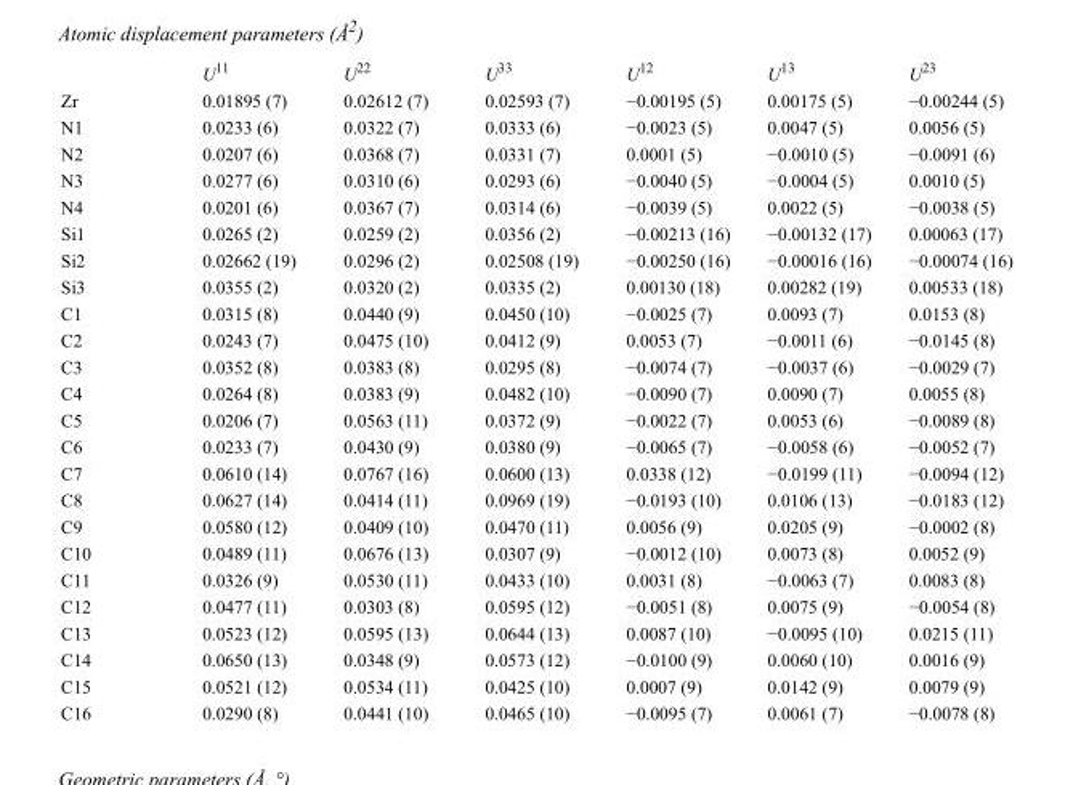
<table><thead><tr><td></td><td>U<sup>11</sup></td><td>U<sup>22</sup></td><td>U<sup>33</sup></td><td>U<sup>12</sup></td><td>U<sup>13</sup></td><td>U<sup>23</sup></td></tr></thead><tbody><tr><td>Zr</td><td>0.01895 (7)</td><td>0.02612 (7)</td><td>0.02593 (7)</td><td>−0.00195 (5)</td><td>0.00175 (5)</td><td>−0.00244 (5)</td></tr><tr><td>N1</td><td>0.0233 (6)</td><td>0.0322 (7)</td><td>0.0333 (6)</td><td>−0.0023 (5)</td><td>0.0047 (5)</td><td>0.0056 (5)</td></tr><tr><td>N2</td><td>0.0207 (6)</td><td>0.0368 (7)</td><td>0.0331 (7)</td><td>0.0001 (5)</td><td>−0.0010 (5)</td><td>−0.0091 (6)</td></tr><tr><td>N3</td><td>0.0277 (6)</td><td>0.0310 (6)</td><td>0.0293 (6)</td><td>−0.0040 (5)</td><td>−0.0004 (5)</td><td>0.0010 (5)</td></tr><tr><td>N4</td><td>0.0201 (6)</td><td>0.0367 (7)</td><td>0.0314 (6)</td><td>−0.0039 (5)</td><td>0.0022 (5)</td><td>−0.0038 (5)</td></tr><tr><td>Si1</td><td>0.0265 (2)</td><td>0.0259 (2)</td><td>0.0356 (2)</td><td>−0.00213 (16)</td><td>−0.00132 (17)</td><td>0.00063 (17)</td></tr><tr><td>Si2</td><td>0.02662 (19)</td><td>0.0296 (2)</td><td>0.02508 (19)</td><td>−0.00250 (16)</td><td>−0.00016 (16)</td><td>−0.00074 (16)</td></tr><tr><td>Si3</td><td>0.0355 (2)</td><td>0.0320 (2)</td><td>0.0335 (2)</td><td>0.00130 (18)</td><td>0.00282 (19)</td><td>0.00533 (18)</td></tr><tr><td>C1</td><td>0.0315 (8)</td><td>0.0440 (9)</td><td>0.0450 (10)</td><td>−0.0025 (7)</td><td>0.0093 (7)</td><td>0.0153 (8)</td></tr><tr><td>C2</td><td>0.0243 (7)</td><td>0.0475 (10)</td><td>0.0412 (9)</td><td>0.0053 (7)</td><td>−0.0011 (6)</td><td>−0.0145 (8)</td></tr><tr><td>C3</td><td>0.0352 (8)</td><td>0.0383 (8)</td><td>0.0295 (8)</td><td>−0.0074 (7)</td><td>−0.0037 (6)</td><td>−0.0029 (7)</td></tr><tr><td>C4</td><td>0.0264 (8)</td><td>0.0383 (9)</td><td>0.0482 (10)</td><td>−0.0090 (7)</td><td>0.0090 (7)</td><td>0.0055 (8)</td></tr><tr><td>C5</td><td>0.0206 (7)</td><td>0.0563 (11)</td><td>0.0372 (9)</td><td>−0.0022 (7)</td><td>0.0053 (6)</td><td>−0.0089 (8)</td></tr><tr><td>C6</td><td>0.0233 (7)</td><td>0.0430 (9)</td><td>0.0380 (9)</td><td>−0.0065 (7)</td><td>−0.0058 (6)</td><td>−0.0052 (7)</td></tr><tr><td>C7</td><td>0.0610 (14)</td><td>0.0767 (16)</td><td>0.0600 (13)</td><td>0.0338 (12)</td><td>−0.0199 (11)</td><td>−0.0094 (12)</td></tr><tr><td>C8</td><td>0.0627 (14)</td><td>0.0414 (11)</td><td>0.0969 (19)</td><td>−0.0193 (10)</td><td>0.0106 (13)</td><td>−0.0183 (12)</td></tr><tr><td>C9</td><td>0.0580 (12)</td><td>0.0409 (10)</td><td>0.0470 (11)</td><td>0.0056 (9)</td><td>0.0205 (9)</td><td>−0.0002 (8)</td></tr><tr><td>C10</td><td>0.0489 (11)</td><td>0.0676 (13)</td><td>0.0307 (9)</td><td>−0.0012 (10)</td><td>0.0073 (8)</td><td>0.0052 (9)</td></tr><tr><td>C11</td><td>0.0326 (9)</td><td>0.0530 (11)</td><td>0.0433 (10)</td><td>0.0031 (8)</td><td>−0.0063 (7)</td><td>0.0083 (8)</td></tr><tr><td>C12</td><td>0.0477 (11)</td><td>0.0303 (8)</td><td>0.0595 (12)</td><td>−0.0051 (8)</td><td>0.0075 (9)</td><td>−0.0054 (8)</td></tr><tr><td>C13</td><td>0.0523 (12)</td><td>0.0595 (13)</td><td>0.0644 (13)</td><td>0.0087 (10)</td><td>−0.0095 (10)</td><td>0.0215 (11)</td></tr><tr><td>C14</td><td>0.0650 (13)</td><td>0.0348 (9)</td><td>0.0573 (12)</td><td>−0.0100 (9)</td><td>0.0060 (10)</td><td>0.0016 (9)</td></tr><tr><td>C15</td><td>0.0521 (12)</td><td>0.0534 (11)</td><td>0.0425 (10)</td><td>0.0007 (9)</td><td>0.0142 (9)</td><td>0.0079 (9)</td></tr><tr><td>C16</td><td>0.0290 (8)</td><td>0.0441 (10)</td><td>0.0465 (10)</td><td>−0.0095 (7)</td><td>0.0061 (7)</td><td>−0.0078 (8)</td></tr></tbody></table>